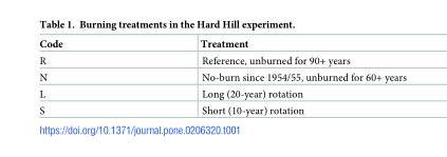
<table><thead><tr><td>Code</td><td>Treatment</td></tr></thead><tbody><tr><td>R</td><td>Reference, unburned for 90+ years</td></tr><tr><td>N</td><td>No-burn since 1954/55, unburned for 60+ years</td></tr><tr><td>L</td><td>Long (20-year) rotation</td></tr><tr><td>S</td><td>Short (10-year) rotation</td></tr></tbody></table>